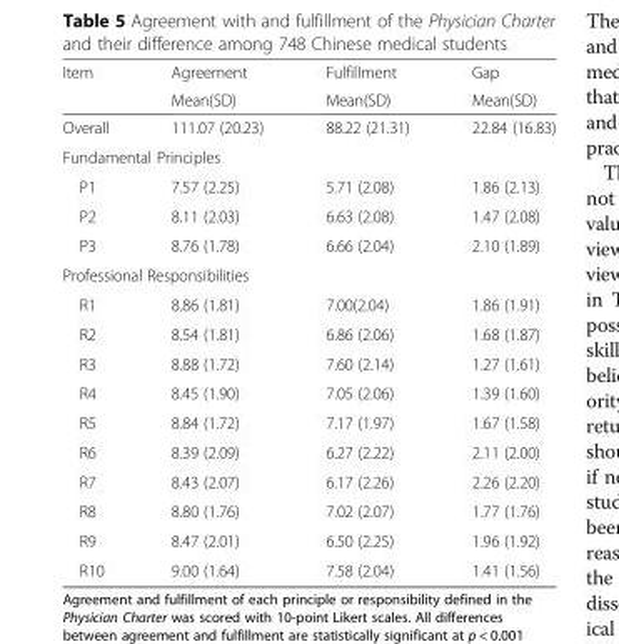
<table><thead><tr><td rowspan="2">Item</td><td rowspan="2">Agreement Mean(SD)</td><td rowspan="2">Fulfillment Mean(SD)</td><td rowspan="2">Gap Mean(SD)</td></tr><tr></tr></thead><tbody><tr><td>Overall</td><td>111.07 (20.23)</td><td>88.22 (21.31)</td><td>22.84 (16.83)</td></tr><tr><td colspan="4">Fundamental Principles</td></tr><tr><td>P1</td><td>7.57 (2.25)</td><td>5.71 (2.08)</td><td>1.86 (2.13)</td></tr><tr><td>P2</td><td>8.11 (2.03)</td><td>6.63 (2.08)</td><td>1.47 (2.08)</td></tr><tr><td>P3</td><td>8.76 (1.78)</td><td>6.66 (2.04)</td><td>2.10 (1.89)</td></tr><tr><td colspan="4">Professional Responsibilities</td></tr><tr><td>R1</td><td>8.86 (1.81)</td><td>7.00(2.04)</td><td>1.86 (1.91)</td></tr><tr><td>R2</td><td>8.54 (1.81)</td><td>6.86 (2.06)</td><td>1.68 (1.87)</td></tr><tr><td>R3</td><td>8.88 (1.72)</td><td>7.60 (2.14)</td><td>1.27 (1.61)</td></tr><tr><td>R4</td><td>8.45 (1.90)</td><td>7.05 (2.06)</td><td>1.39 (1.60)</td></tr><tr><td>R5</td><td>8.84 (1.72)</td><td>7.17 (1.97)</td><td>1.67 (1.58)</td></tr><tr><td>R6</td><td>8.39 (2.09)</td><td>6.27 (2.22)</td><td>2.11 (2.00)</td></tr><tr><td>R7</td><td>8.43 (2.07)</td><td>6.17 (2.26)</td><td>2.26 (2.20)</td></tr><tr><td>R8</td><td>8.80 (1.76)</td><td>7.02 (2.07)</td><td>1.77 (1.76)</td></tr><tr><td>R9</td><td>8.47 (2.01)</td><td>6.50 (2.25)</td><td>1.96 (1.92)</td></tr><tr><td>R10</td><td>9.00 (1.64)</td><td>7.58 (2.04)</td><td>1.41 (1.56)</td></tr></tbody></table>